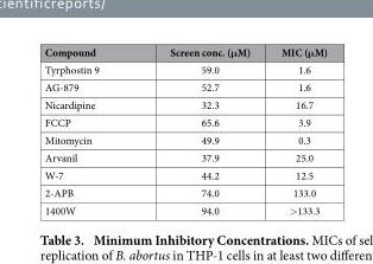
<table><thead><tr><td>Compound</td><td>Screen conc. (μM)</td><td>MIC (μM)</td></tr></thead><tbody><tr><td>Tyrphostin 9</td><td>59.0</td><td>1.6</td></tr><tr><td>AG-879</td><td>52.7</td><td>1.6</td></tr><tr><td>Nicardipine</td><td>32.3</td><td>16.7</td></tr><tr><td>FCCP</td><td>65.6</td><td>3.9</td></tr><tr><td>Mitomycin</td><td>49.9</td><td>0.3</td></tr><tr><td>Arvanil</td><td>37.9</td><td>25.0</td></tr><tr><td>W-7</td><td>44.2</td><td>12.5</td></tr><tr><td>2-APB</td><td>74.0</td><td>133.0</td></tr><tr><td>1400W</td><td>94.0</td><td>&gt; 133.3</td></tr></tbody></table>